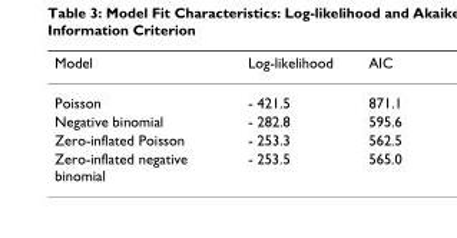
<table><thead><tr><td>Model</td><td>Log-likelihood</td><td>AIC</td></tr></thead><tbody><tr><td>Poisson</td><td>- 421.5</td><td>871.1</td></tr><tr><td>Negative binomial</td><td>- 282.8</td><td>595.6</td></tr><tr><td>Zero-inflated Poisson</td><td>- 253.3</td><td>562.5</td></tr><tr><td>Zero-inflated negative binomial</td><td>- 253.5</td><td>565.0</td></tr></tbody></table>